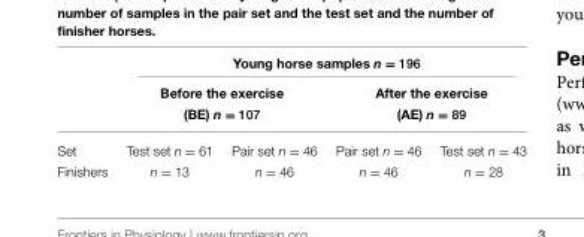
<table><thead><tr><td rowspan="4">Set</td><td colspan="4">Young horse samples n = 196</td></tr><tr><td rowspan="2" colspan="2">Before the exercise (BE) n = 107</td><td rowspan="2" colspan="2">After the exercise (AE) n = 89</td></tr><tr></tr><tr><td>Test set n = 61</td><td>Pair set n = 46</td><td>Pair set n = 46</td><td>Test set n = 43</td></tr></thead><tbody><tr><td>Finishers</td><td>n = 13</td><td>n = 46</td><td>n = 46</td><td>n = 28</td></tr></tbody></table>